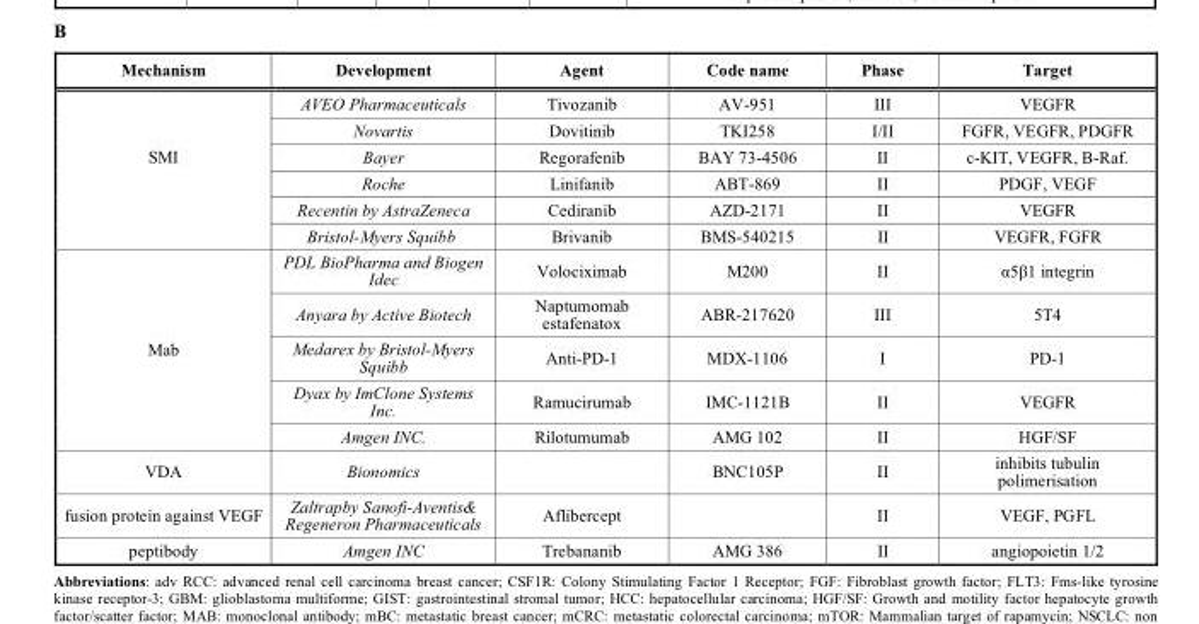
<table><thead><tr><td>Mechanism</td><td>Development</td><td>Agent</td><td>Code name</td><td>Phase</td><td>Target</td></tr></thead><tbody><tr><td rowspan="6">SMI</td><td>AVEO Pharmaceuticals</td><td>Tivozanib</td><td>AV-951</td><td>III</td><td>VEGFR</td></tr><tr><td>Novartis</td><td>Dovitinib</td><td>TKI258</td><td>I/II</td><td>FGFR, VEGFR, PDGFR</td></tr><tr><td>Bayer</td><td>Regorafenib</td><td>BAY 73-4506</td><td>II</td><td>c-KIT, VEGFR, B-Raf.</td></tr><tr><td>Roche</td><td>Linifanib</td><td>ABT-869</td><td>II</td><td>PDGF, VEGF</td></tr><tr><td>Recentin by AstraZeneca</td><td>Cediranib</td><td>AZD-2171</td><td>II</td><td>VEGFR</td></tr><tr><td>Bristol-Myers Squibb</td><td>Brivanib</td><td>BMS-540215</td><td>II</td><td>VEGFR, FGFR</td></tr><tr><td rowspan="5">Mab</td><td>PDL BioPharma and Biogen Idec</td><td>Volociximab</td><td>M200</td><td>II</td><td>α5β1 integrin</td></tr><tr><td>Anyara by Active Biotech</td><td>Naptumomab estafenatox</td><td>ABR-217620</td><td>III</td><td>5T4</td></tr><tr><td>Medarex by Bristol-Myers Squibb</td><td>Anti-PD-1</td><td>MDX-1106</td><td>I</td><td>PD-1</td></tr><tr><td>Dyax by ImClone Systems Inc.</td><td>Ramucirumab</td><td>IMC-1121B</td><td>II</td><td>VEGFR</td></tr><tr><td>Amgen INC.</td><td>Rilotumumab</td><td>AMG 102</td><td>II</td><td>HGF/SF</td></tr><tr><td>VDA</td><td>Bionomics</td><td></td><td>BNC105P</td><td>II</td><td>inhibits tubulin polimerisation</td></tr><tr><td>fusion protein against VEGF</td><td>Zaltrapby Sanofi-Aventis&amp; Regeneron Pharmaceuticals</td><td>Aflibercept</td><td></td><td>II</td><td>VEGF, PGFL</td></tr><tr><td>peptibody</td><td>Amgen INC</td><td>Trebananib</td><td>AMG 386</td><td>II</td><td>angiopoietin 1/2</td></tr></tbody></table>